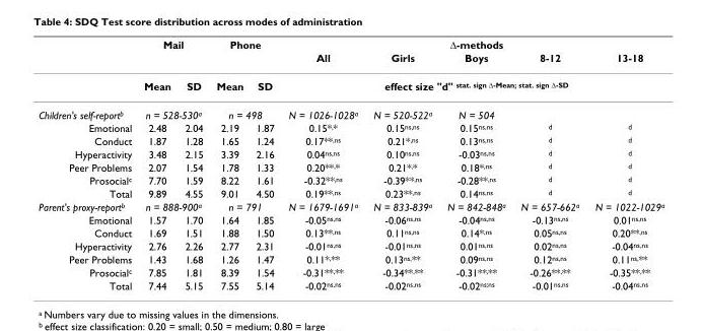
<table><thead><tr><td rowspan="2"></td><td colspan="2">Mail</td><td colspan="2">Phone</td><td colspan="5">Δ-methods</td></tr><tr><td></td><td></td><td></td><td></td><td>All</td><td>Girls</td><td>Boys</td><td>8-12</td><td>13-18</td></tr></thead><tbody><tr><td></td><td>Mean</td><td>SD</td><td>Mean</td><td>SD</td><td colspan="5">effect size &quot;d&quot; <sup>stat. sign Δ-Mean; stat. sign Δ-SD</sup></td></tr><tr><td>Children&#x27;s self-report<sup>b</sup></td><td colspan="2">n = 528-530<sup>a</sup></td><td colspan="2">n = 498</td><td>N = 1026-1028<sup>a</sup></td><td>N = 520-522<sup>a</sup></td><td>N = 504</td><td></td><td></td></tr><tr><td>Emotional</td><td>2.48</td><td>2.04</td><td>2.19</td><td>1.87</td><td>0.15*<sup>,</sup>*</td><td>0.15<sup>ns,ns</sup></td><td>0.15<sup>ns,ns</sup></td><td><sup>d</sup></td><td><sup>d</sup></td></tr><tr><td>Conduct</td><td>1.87</td><td>1.28</td><td>1.65</td><td>1.24</td><td>0.17**<sup>,ns</sup></td><td>0.21*<sup>,ns</sup></td><td>0.13<sup>ns,ns</sup></td><td><sup>d</sup></td><td><sup>d</sup></td></tr><tr><td>Hyperactivity</td><td>3.48</td><td>2.15</td><td>3.39</td><td>2.16</td><td>0.04<sup>ns,ns</sup></td><td>0.10<sup>ns,ns</sup></td><td>-0.03<sup>ns,ns</sup></td><td><sup>d</sup></td><td><sup>d</sup></td></tr><tr><td>Peer Problems</td><td>2.07</td><td>1.54</td><td>1.78</td><td>1.33</td><td>0.20**<sup>,</sup>*</td><td>0.21*<sup>,</sup>*</td><td>0.18*<sup>,ns</sup></td><td><sup>d</sup></td><td><sup>d</sup></td></tr><tr><td>Prosocial<sup>c</sup></td><td>7.70</td><td>1.59</td><td>8.22</td><td>1.61</td><td>-0.32**<sup>,ns</sup></td><td>-0.39**<sup>,ns</sup></td><td>-0.28**<sup>,ns</sup></td><td><sup>d</sup></td><td><sup>d</sup></td></tr><tr><td>Total</td><td>9.89</td><td>4.55</td><td>9.01</td><td>4.50</td><td>0.19**<sup>,ns</sup></td><td>0.23**<sup>,ns</sup></td><td>0.14<sup>ns,ns</sup></td><td><sup>d</sup></td><td><sup>d</sup></td></tr><tr><td>Parent&#x27;s proxy-report<sup>b</sup></td><td colspan="2">n = 888-900<sup>a</sup></td><td colspan="2">n = 791</td><td>N = 1679-1691<sup>a</sup></td><td>N = 833-839<sup>a</sup></td><td>N = 842-848<sup>a</sup></td><td>N = 657-662<sup>a</sup></td><td>N = 1022-1029<sup>a</sup></td></tr><tr><td>Emotional</td><td>1.57</td><td>1.70</td><td>1.64</td><td>1.85</td><td>-0.05<sup>ns,ns</sup></td><td>-0.06<sup>ns,ns</sup></td><td>-0.04<sup>ns,ns</sup></td><td>-0.13<sup>ns,ns</sup></td><td>0.01<sup>ns,ns</sup></td></tr><tr><td>Conduct</td><td>1.69</td><td>1.51</td><td>1.88</td><td>1.50</td><td>0.13**<sup>,ns</sup></td><td>0.11<sup>ns,ns</sup></td><td>0.14*<sup>,ns</sup></td><td>0.05<sup>ns,ns</sup></td><td>0.20**<sup>,ns</sup></td></tr><tr><td>Hyperactivity</td><td>2.76</td><td>2.26</td><td>2.77</td><td>2.31</td><td>-0.01<sup>ns,ns</sup></td><td>-0.01<sup>ns,ns</sup></td><td>0.01<sup>ns,ns</sup></td><td>0.02<sup>ns,ns</sup></td><td>-0.04<sup>ns,ns</sup></td></tr><tr><td>Peer Problems</td><td>1.43</td><td>1.68</td><td>1.26</td><td>1.47</td><td>0.11*<sup>,</sup>**</td><td>0.13<sup>ns,</sup>**</td><td>0.09<sup>ns,ns</sup></td><td>0.12<sup>ns,ns</sup></td><td>0.11<sup>ns,</sup>**</td></tr><tr><td>Prosocial<sup>c</sup></td><td>7.85</td><td>1.81</td><td>8.39</td><td>1.54</td><td>-0.31**<sup>,</sup>**</td><td>-0.34**<sup>,</sup>**</td><td>-0.31**<sup>,</sup>**</td><td>-0.26**<sup>,</sup>**</td><td>-0.35**<sup>,</sup>**</td></tr><tr><td>Total</td><td>7.44</td><td>5.15</td><td>7.55</td><td>5.14</td><td>-0.02<sup>ns,ns</sup></td><td>-0.02<sup>ns,ns</sup></td><td>-0.02<sup>ns;ns</sup></td><td>-0.01<sup>ns,ns</sup></td><td>-0.04<sup>ns,ns</sup></td></tr></tbody></table>